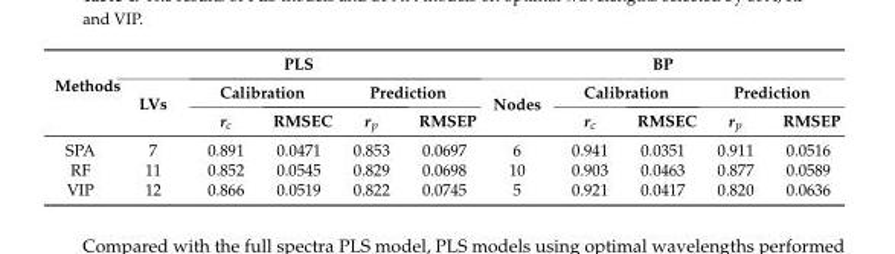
<table><thead><tr><td rowspan="3">Methods</td><td colspan="5">PLS</td><td colspan="5">BP</td></tr><tr><td rowspan="2">LVs</td><td colspan="2">Calibration</td><td colspan="2">Prediction</td><td rowspan="2">Nodes</td><td colspan="2">Calibration</td><td colspan="2">Prediction</td></tr><tr><td>r<sub>c</sub></td><td>RMSEC</td><td>r<sub>p</sub></td><td>RMSEP</td><td>r<sub>c</sub></td><td>RMSEC</td><td>r<sub>p</sub></td><td>RMSEP</td></tr></thead><tbody><tr><td>SPA</td><td>7</td><td>0.891</td><td>0.0471</td><td>0.853</td><td>0.0697</td><td>6</td><td>0.941</td><td>0.0351</td><td>0.911</td><td>0.0516</td></tr><tr><td>RF</td><td>11</td><td>0.852</td><td>0.0545</td><td>0.829</td><td>0.0698</td><td>10</td><td>0.903</td><td>0.0463</td><td>0.877</td><td>0.0589</td></tr><tr><td>VIP</td><td>12</td><td>0.866</td><td>0.0519</td><td>0.822</td><td>0.0745</td><td>5</td><td>0.921</td><td>0.0417</td><td>0.820</td><td>0.0636</td></tr></tbody></table>